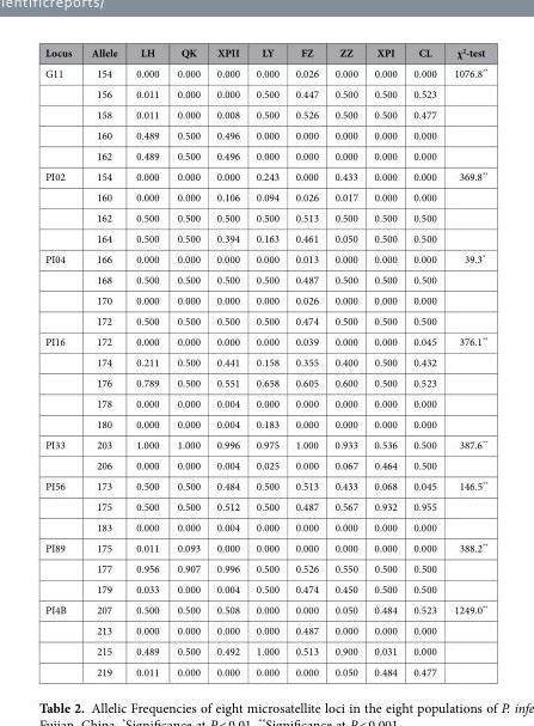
<table><thead><tr><td>Locus</td><td>Allele</td><td>LH</td><td>QK</td><td>XPII</td><td>LY</td><td>FZ</td><td>ZZ</td><td>XPI</td><td>CL</td><td>χ<sup>2</sup>-test</td></tr></thead><tbody><tr><td rowspan="5">G11</td><td>154</td><td>0.000</td><td>0.000</td><td>0.000</td><td>0.000</td><td>0.026</td><td>0.000</td><td>0.000</td><td>0.000</td><td>1076.8**</td></tr><tr><td>156</td><td>0.011</td><td>0.000</td><td>0.000</td><td>0.500</td><td>0.447</td><td>0.500</td><td>0.500</td><td>0.523</td><td></td></tr><tr><td>158</td><td>0.011</td><td>0.000</td><td>0.008</td><td>0.500</td><td>0.526</td><td>0.500</td><td>0.500</td><td>0.477</td><td></td></tr><tr><td>160</td><td>0.489</td><td>0.500</td><td>0.496</td><td>0.000</td><td>0.000</td><td>0.000</td><td>0.000</td><td>0.000</td><td></td></tr><tr><td>162</td><td>0.489</td><td>0.500</td><td>0.496</td><td>0.000</td><td>0.000</td><td>0.000</td><td>0.000</td><td>0.000</td><td></td></tr><tr><td rowspan="4">PI02</td><td>154</td><td>0.000</td><td>0.000</td><td>0.000</td><td>0.243</td><td>0.000</td><td>0.433</td><td>0.000</td><td>0.000</td><td>369.8**</td></tr><tr><td>160</td><td>0.000</td><td>0.000</td><td>0.106</td><td>0.094</td><td>0.026</td><td>0.017</td><td>0.000</td><td>0.000</td><td></td></tr><tr><td>162</td><td>0.500</td><td>0.500</td><td>0.500</td><td>0.500</td><td>0.513</td><td>0.500</td><td>0.500</td><td>0.500</td><td></td></tr><tr><td>164</td><td>0.500</td><td>0.500</td><td>0.394</td><td>0.163</td><td>0.461</td><td>0.050</td><td>0.500</td><td>0.500</td><td></td></tr><tr><td rowspan="4">PI04</td><td>166</td><td>0.000</td><td>0.000</td><td>0.000</td><td>0.000</td><td>0.013</td><td>0.000</td><td>0.000</td><td>0.000</td><td>39.3*</td></tr><tr><td>168</td><td>0.500</td><td>0.500</td><td>0.500</td><td>0.500</td><td>0.487</td><td>0.500</td><td>0.500</td><td>0.500</td><td></td></tr><tr><td>170</td><td>0.000</td><td>0.000</td><td>0.000</td><td>0.000</td><td>0.026</td><td>0.000</td><td>0.000</td><td>0.000</td><td></td></tr><tr><td>172</td><td>0.500</td><td>0.500</td><td>0.500</td><td>0.500</td><td>0.474</td><td>0.500</td><td>0.500</td><td>0.500</td><td></td></tr><tr><td rowspan="5">PI16</td><td>172</td><td>0.000</td><td>0.000</td><td>0.000</td><td>0.000</td><td>0.039</td><td>0.000</td><td>0.000</td><td>0.045</td><td>376.1**</td></tr><tr><td>174</td><td>0.211</td><td>0.500</td><td>0.441</td><td>0.158</td><td>0.355</td><td>0.400</td><td>0.500</td><td>0.432</td><td></td></tr><tr><td>176</td><td>0.789</td><td>0.500</td><td>0.551</td><td>0.658</td><td>0.605</td><td>0.600</td><td>0.500</td><td>0.523</td><td></td></tr><tr><td>178</td><td>0.000</td><td>0.000</td><td>0.004</td><td>0.000</td><td>0.000</td><td>0.000</td><td>0.000</td><td>0.000</td><td></td></tr><tr><td>180</td><td>0.000</td><td>0.000</td><td>0.004</td><td>0.183</td><td>0.000</td><td>0.000</td><td>0.000</td><td>0.000</td><td></td></tr><tr><td rowspan="2">PI33</td><td>203</td><td>1.000</td><td>1.000</td><td>0.996</td><td>0.975</td><td>1.000</td><td>0.933</td><td>0.536</td><td>0.500</td><td>387.6**</td></tr><tr><td>206</td><td>0.000</td><td>0.000</td><td>0.004</td><td>0.025</td><td>0.000</td><td>0.067</td><td>0.464</td><td>0.500</td><td></td></tr><tr><td rowspan="3">PI56</td><td>173</td><td>0.500</td><td>0.500</td><td>0.484</td><td>0.500</td><td>0.513</td><td>0.433</td><td>0.068</td><td>0.045</td><td>146.5**</td></tr><tr><td>175</td><td>0.500</td><td>0.500</td><td>0.512</td><td>0.500</td><td>0.487</td><td>0.567</td><td>0.932</td><td>0.955</td><td></td></tr><tr><td>183</td><td>0.000</td><td>0.000</td><td>0.004</td><td>0.000</td><td>0.000</td><td>0.000</td><td>0.000</td><td>0.000</td><td></td></tr><tr><td rowspan="3">PI89</td><td>175</td><td>0.011</td><td>0.093</td><td>0.000</td><td>0.000</td><td>0.000</td><td>0.000</td><td>0.000</td><td>0.000</td><td>388.2**</td></tr><tr><td>177</td><td>0.956</td><td>0.907</td><td>0.996</td><td>0.500</td><td>0.526</td><td>0.550</td><td>0.500</td><td>0.500</td><td></td></tr><tr><td>179</td><td>0.033</td><td>0.000</td><td>0.004</td><td>0.500</td><td>0.474</td><td>0.450</td><td>0.500</td><td>0.500</td><td></td></tr><tr><td rowspan="4">PI4B</td><td>207</td><td>0.500</td><td>0.500</td><td>0.508</td><td>0.000</td><td>0.000</td><td>0.050</td><td>0.484</td><td>0.523</td><td>1249.0**</td></tr><tr><td>213</td><td>0.000</td><td>0.000</td><td>0.000</td><td>0.000</td><td>0.487</td><td>0.000</td><td>0.000</td><td>0.000</td><td></td></tr><tr><td>215</td><td>0.489</td><td>0.500</td><td>0.492</td><td>1.000</td><td>0.513</td><td>0.900</td><td>0.031</td><td>0.000</td><td></td></tr><tr><td>219</td><td>0.011</td><td>0.000</td><td>0.000</td><td>0.000</td><td>0.000</td><td>0.050</td><td>0.484</td><td>0.477</td><td></td></tr></tbody></table>